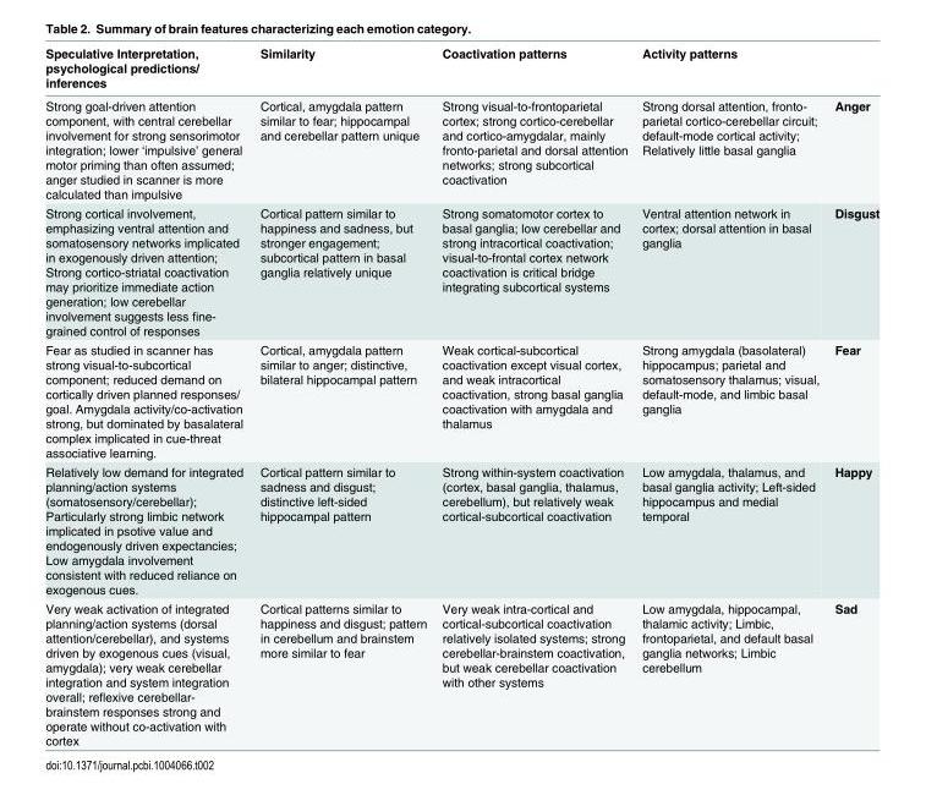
<table><thead><tr><td>Speculative Interpretation, psychological predictions/ inferences</td><td>Similarity</td><td>Coactivation patterns</td><td>Activity patterns</td><td></td></tr></thead><tbody><tr><td>Strong goal-driven attention component, with central cerebellar involvement for strong sensorimotor integration; lower ‘impulsive’ general motor priming than often assumed; anger studied in scanner is more calculated than impulsive</td><td>Cortical, amygdala pattern similar to fear; hippocampal and cerebellar pattern unique</td><td>Strong visual-to-frontoparietal cortex; strong cortico-cerebellar and cortico-amygdalar, mainly fronto-parietal and dorsal attention networks; strong subcortical coactivation</td><td>Strong dorsal attention, fronto- parietal cortico-cerebellar circuit; default-mode cortical activity; Relatively little basal ganglia</td><td>Anger</td></tr><tr><td>Strong cortical involvement, emphasizing ventral attention and somatosensory networks implicated in exogenously driven attention; Strong cortico-striatal coactivation may prioritize immediate action generation; low cerebellar involvement suggests less fine- grained control of responses</td><td>Cortical pattern similar to happiness and sadness, but stronger engagement; subcortical pattern in basal ganglia relatively unique</td><td>Strong somatomotor cortex to basal ganglia; low cerebellar and strong intracortical coactivation; visual-to-frontal cortex network coactivation is critical bridge integrating subcortical systems</td><td>Ventral attention network in cortex; dorsal attention in basal ganglia</td><td>Disgust</td></tr><tr><td>Fear as studied in scanner has strong visual-to-subcortical component; reduced demand on cortically driven planned responses/ goal. Amygdala activity/co-activation strong, but dominated by basalateral complex implicated in cue-threat associative learning.</td><td>Cortical, amygdala pattern similar to anger; distinctive, bilateral hippocampal pattern</td><td>Weak cortical-subcortical coactivation except visual cortex, and weak intracortical coactivation, strong basal ganglia coactivation with amygdala and thalamus</td><td>Strong amygdala (basolateral) hippocampus; parietal and somatosensory thalamus; visual, default-mode, and limbic basal ganglia</td><td>Fear</td></tr><tr><td>Relatively low demand for integrated planning/action systems (somatosensory/cerebellar); Particularly strong limbic network implicated in psotive value and endogenously driven expectancies; Low amygdala involvement consistent with reduced reliance on exogenous cues.</td><td>Cortical pattern similar to sadness and disgust; distinctive left-sided hippocampal pattern</td><td>Strong within-system coactivation (cortex, basal ganglia, thalamus, cerebellum), but relatively weak cortical-subcortical coactivation</td><td>Low amygdala, thalamus, and basal ganglia activity; Left-sided hippocampus and medial temporal</td><td>Happy</td></tr><tr><td>Very weak activation of integrated planning/action systems (dorsal attention/cerebellar), and systems driven by exogenous cues (visual, amygdala); very weak cerebellar integration and system integration overall; reflexive cerebellar- brainstem responses strong and operate without co-activation with cortex</td><td>Cortical patterns similar to happiness and disgust; pattern in cerebellum and brainstem more similar to fear</td><td>Very weak intra-cortical and cortical-subcortical coactivation relatively isolated systems; strong cerebellar-brainstem coactivation, but weak cerebellar coactivation with other systems</td><td>Low amygdala, hippocampal, thalamic activity; Limbic, frontoparietal, and default basal ganglia networks; Limbic cerebellum</td><td>Sad</td></tr></tbody></table>